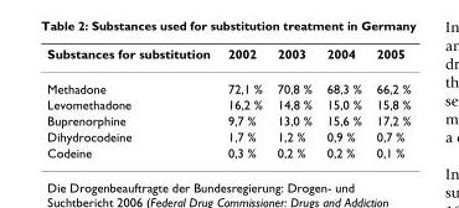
<table><thead><tr><td>Substances for substitution</td><td>2002</td><td>2003</td><td>2004</td><td>2005</td></tr></thead><tbody><tr><td>Methadone</td><td>72,1 %</td><td>70,8 %</td><td>68,3 %</td><td>66,2 %</td></tr><tr><td>Levomethadone</td><td>16,2 %</td><td>14,8 %</td><td>15,0 %</td><td>15,8 %</td></tr><tr><td>Buprenorphine</td><td>9,7 %</td><td>13,0 %</td><td>15,6 %</td><td>17,2 %</td></tr><tr><td>Dihydrocodeine</td><td>1,7 %</td><td>1,2 %</td><td>0,9 %</td><td>0,7 %</td></tr><tr><td>Codeine</td><td>0,3 %</td><td>0,2 %</td><td>0,2 %</td><td>0,1 %</td></tr></tbody></table>